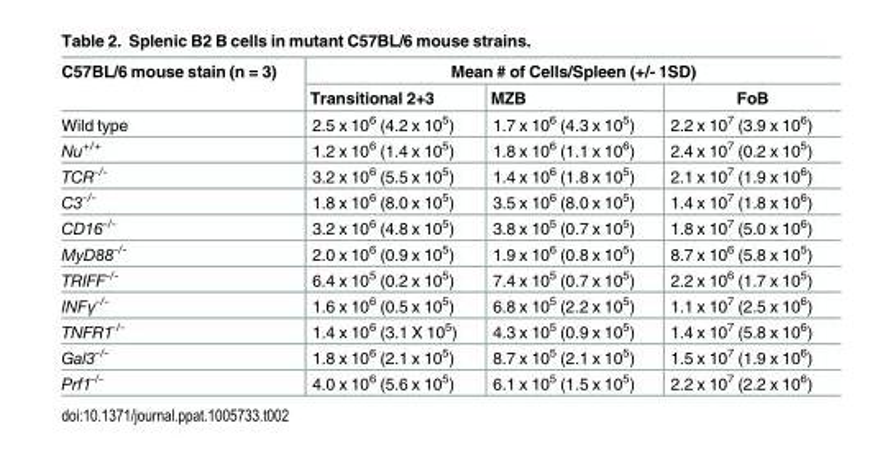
<table><thead><tr><td rowspan="2">C57BL/6 mouse stain (n = 3)</td><td colspan="3">Mean # of Cells/Spleen (+/- 1SD)</td></tr><tr><td>Transitional 2+3</td><td>MZB</td><td>FoB</td></tr></thead><tbody><tr><td>Wild type</td><td>2.5 x 10<sup>6</sup> (4.2 x 10<sup>5</sup>)</td><td>1.7 x 10<sup>6</sup> (4.3 x 10<sup>5</sup>)</td><td>2.2 x 10<sup>7</sup> (3.9 x 10<sup>6</sup>)</td></tr><tr><td>Nu<sup>+/+</sup></td><td>1.2 x 10<sup>6</sup> (1.4 x 10<sup>5</sup>)</td><td>1.8 x 10<sup>6</sup> (1.1 x 10<sup>6</sup>)</td><td>2.4 x 10<sup>7</sup> (0.2 x 10<sup>5</sup>)</td></tr><tr><td>TCR<sup>-/-</sup></td><td>3.2 x 10<sup>6</sup> (5.5 x 10<sup>5</sup>)</td><td>1.4 x 10<sup>6</sup> (1.8 x 10<sup>5</sup>)</td><td>2.1 x 10<sup>7</sup> (1.9 x 10<sup>6</sup>)</td></tr><tr><td>C3<sup>-/-</sup></td><td>1.8 x 10<sup>6</sup> (8.0 x 10<sup>5</sup>)</td><td>3.5 x 10<sup>6</sup> (8.0 x 10<sup>5</sup>)</td><td>1.4 x 10<sup>7</sup> (1.8 x 10<sup>6</sup>)</td></tr><tr><td>CD16<sup>-/-</sup></td><td>3.2 x 10<sup>6</sup> (4.8 x 10<sup>5</sup>)</td><td>3.8 x 10<sup>5</sup> (0.7 x 10<sup>5</sup>)</td><td>1.8 x 10<sup>7</sup> (5.0 x 10<sup>6</sup>)</td></tr><tr><td>MyD88<sup>-/-</sup></td><td>2.0 x 10<sup>6</sup> (0.9 x 10<sup>5</sup>)</td><td>1.9 x 10<sup>6</sup> (0.8 x 10<sup>5</sup>)</td><td>8.7 x 10<sup>6</sup> (5.8 x 10<sup>5</sup>)</td></tr><tr><td>TRIFF<sup>-/-</sup></td><td>6.4 x 10<sup>5</sup> (0.2 x 10<sup>5</sup>)</td><td>7.4 x 10<sup>5</sup> (0.7 x 10<sup>5</sup>)</td><td>2.2 x 10<sup>6</sup> (1.7 x 10<sup>5</sup>)</td></tr><tr><td>INFγ<sup>-/-</sup></td><td>1.6 x 10<sup>6</sup> (0.5 x 10<sup>5</sup>)</td><td>6.8 x 10<sup>5</sup> (2.2 x 10<sup>5</sup>)</td><td>1.1 x 10<sup>7</sup> (2.5 x 10<sup>6</sup>)</td></tr><tr><td>TNFR1<sup>-/-</sup></td><td>1.4 x 10<sup>6</sup> (3.1 X 10<sup>5</sup>)</td><td>4.3 x 10<sup>5</sup> (0.9 x 10<sup>5</sup>)</td><td>1.4 x 10<sup>7</sup> (5.8 x 10<sup>6</sup>)</td></tr><tr><td>Gal3<sup>-/-</sup></td><td>1.8 x 10<sup>6</sup> (2.1 x 10<sup>5</sup>)</td><td>8.7 x 10<sup>5</sup> (2.1 x 10<sup>5</sup>)</td><td>1.5 x 10<sup>7</sup> (1.9 x 10<sup>6</sup>)</td></tr><tr><td>Prf1<sup>-/-</sup></td><td>4.0 x 10<sup>6</sup> (5.6 x 10<sup>5</sup>)</td><td>6.1 x 10<sup>5</sup> (1.5 x 10<sup>5</sup>)</td><td>2.2 x 10<sup>7</sup> (2.2 x 10<sup>6</sup>)</td></tr></tbody></table>